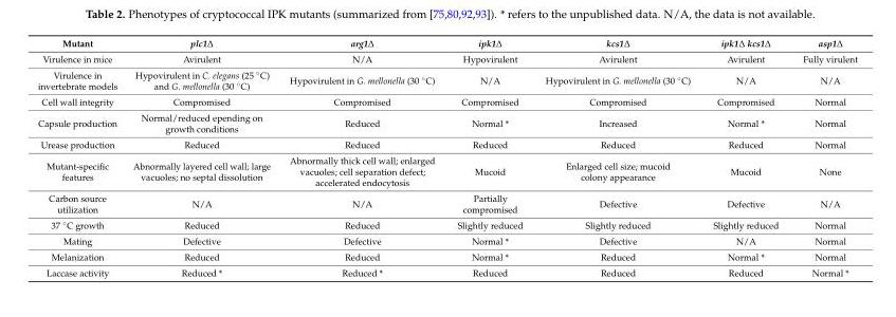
<table><thead><tr><td>Mutant</td><td>plc1∆</td><td>arg1∆</td><td>ipk1∆</td><td>kcs1∆</td><td>ipk1∆ kcs1∆</td><td>asp1∆</td></tr></thead><tbody><tr><td>Virulence in mice</td><td>Avirulent</td><td>N/A</td><td>Hypovirulent</td><td>Avirulent</td><td>Avirulent</td><td>Fully virulent</td></tr><tr><td>Virulence in invertebrate models</td><td>Hypovirulent in C. elegans (25 ◦C) and G. mellonella (30 ◦C)</td><td>Hypovirulent in G. mellonella (30 ◦C)</td><td>N/A</td><td>Hypovirulent in G. mellonella (30 ◦C)</td><td>N/A</td><td>N/A</td></tr><tr><td>Cell wall integrity</td><td>Compromised</td><td>Compromised</td><td>Compromised</td><td>Compromised</td><td>Compromised</td><td>Normal</td></tr><tr><td>Capsule production</td><td>Normal/reduced epending on growth conditions</td><td>Reduced</td><td>Normal *</td><td>Increased</td><td>Normal *</td><td>Normal</td></tr><tr><td>Urease production</td><td>Reduced</td><td>Reduced</td><td>Reduced</td><td>Reduced</td><td>Reduced</td><td>Normal</td></tr><tr><td>Mutant-specific features</td><td>Abnormally layered cell wall; large vacuoles; no septal dissolution</td><td>Abnormally thick cell wall; enlarged vacuoles; cell separation defect; accelerated endocytosis</td><td>Mucoid</td><td>Enlarged cell size; mucoid colony appearance</td><td>Mucoid</td><td>None</td></tr><tr><td>Carbon source utilization</td><td>N/A</td><td>N/A</td><td>Partially compromised</td><td>Defective</td><td>Defective</td><td>N/A</td></tr><tr><td>37 ◦C growth</td><td>Reduced</td><td>Reduced</td><td>Slightly reduced</td><td>Slightly reduced</td><td>Slightly reduced</td><td>Normal</td></tr><tr><td>Mating</td><td>Defective</td><td>Defective</td><td>Normal *</td><td>Defective</td><td>N/A</td><td>Normal</td></tr><tr><td>Melanization</td><td>Reduced</td><td>Reduced</td><td>Normal *</td><td>Reduced</td><td>Normal *</td><td>Normal</td></tr><tr><td>Laccase activity</td><td>Reduced *</td><td>Reduced *</td><td>Reduced</td><td>Reduced</td><td>Reduced</td><td>Normal *</td></tr></tbody></table>